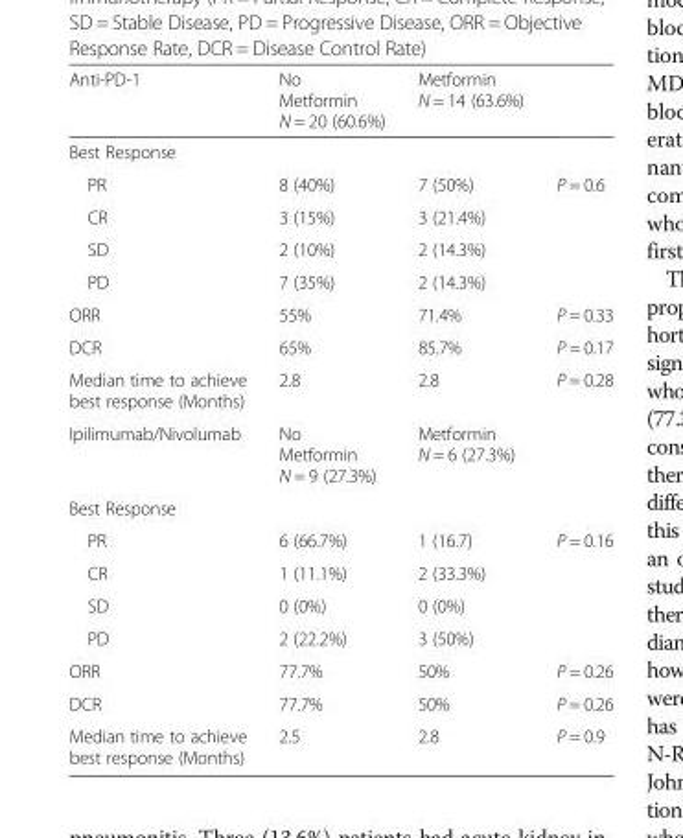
<table><thead><tr><td>Anti-PD-1</td><td>No Metformin N = 20 (60.6%)</td><td>Metformin N = 14 (63.6%)</td><td></td></tr></thead><tbody><tr><td colspan="4">Best Response</td></tr><tr><td>PR</td><td>8 (40%)</td><td>7 (50%)</td><td rowspan="4">P = 0.6</td></tr><tr><td>CR</td><td>3 (15%)</td><td>3 (21.4%)</td></tr><tr><td>SD</td><td>2 (10%)</td><td>2 (14.3%)</td></tr><tr><td>PD</td><td>7 (35%)</td><td>2 (14.3%)</td></tr><tr><td>ORR</td><td>55%</td><td>71.4%</td><td>P = 0.33</td></tr><tr><td>DCR</td><td>65%</td><td>85.7%</td><td>P = 0.17</td></tr><tr><td>Median time to achieve best response (Months)</td><td>2.8</td><td>2.8</td><td>P = 0.28</td></tr><tr><td>Ipilimumab/Nivolumab</td><td>No Metformin N = 9 (27.3%)</td><td>Metformin N = 6 (27.3%)</td><td></td></tr><tr><td colspan="4">Best Response</td></tr><tr><td>PR</td><td>6 (66.7%)</td><td>1 (16.7)</td><td rowspan="4">P = 0.16</td></tr><tr><td>CR</td><td>1 (11.1%)</td><td>2 (33.3%)</td></tr><tr><td>SD</td><td>0 (0%)</td><td>0 (0%)</td></tr><tr><td>PD</td><td>2 (22.2%)</td><td>3 (50%)</td></tr><tr><td>ORR</td><td>77.7%</td><td>50%</td><td>P = 0.26</td></tr><tr><td>DCR</td><td>77.7%</td><td>50%</td><td>P = 0.26</td></tr><tr><td>Median time to achieve best response (Months)</td><td>2.5</td><td>2.8</td><td>P = 0.9</td></tr></tbody></table>